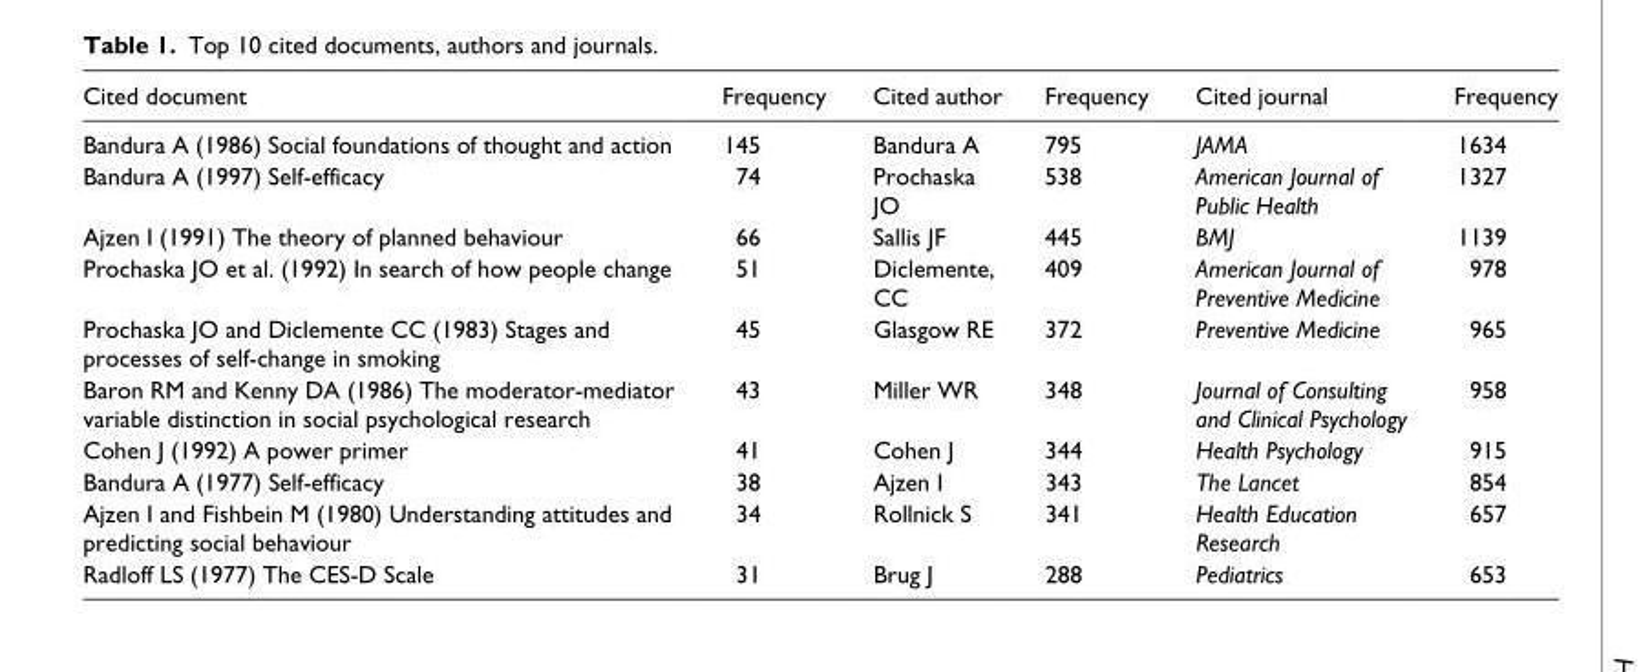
<table><thead><tr><td>Cited document</td><td>Frequency</td><td>Cited author</td><td>Frequency</td><td>Cited journal</td><td>Frequency</td></tr></thead><tbody><tr><td>Bandura A (1986) Social foundations of thought and action</td><td>145</td><td>Bandura A</td><td>795</td><td>JAMA</td><td>1634</td></tr><tr><td>Bandura A (1997) Self-efficacy</td><td>74</td><td>Prochaska JO</td><td>538</td><td>American Journal of Public Health</td><td>1327</td></tr><tr><td>Ajzen I (1991) The theory of planned behaviour</td><td>66</td><td>Sallis JF</td><td>445</td><td>BMJ</td><td>1139</td></tr><tr><td>Prochaska JO et al. (1992) In search of how people change</td><td>51</td><td>Diclemente, CC</td><td>409</td><td>American Journal of Preventive Medicine</td><td>978</td></tr><tr><td>Prochaska JO and Diclemente CC (1983) Stages and processes of self-change in smoking</td><td>45</td><td>Glasgow RE</td><td>372</td><td>Preventive Medicine</td><td>965</td></tr><tr><td>Baron RM and Kenny DA (1986) The moderator-mediator variable distinction in social psychological research</td><td>43</td><td>Miller WR</td><td>348</td><td>Journal of Consulting and Clinical Psychology</td><td>958</td></tr><tr><td>Cohen J (1992) A power primer</td><td>41</td><td>Cohen J</td><td>344</td><td>Health Psychology</td><td>915</td></tr><tr><td>Bandura A (1977) Self-efficacy</td><td>38</td><td>Ajzen I</td><td>343</td><td>The Lancet</td><td>854</td></tr><tr><td>Ajzen I and Fishbein M (1980) Understanding attitudes and predicting social behaviour</td><td>34</td><td>Rollnick S</td><td>341</td><td>Health Education Research</td><td>657</td></tr><tr><td>Radloff LS (1977) The CES-D Scale</td><td>31</td><td>Brug J</td><td>288</td><td>Pediatrics</td><td>653</td></tr></tbody></table>